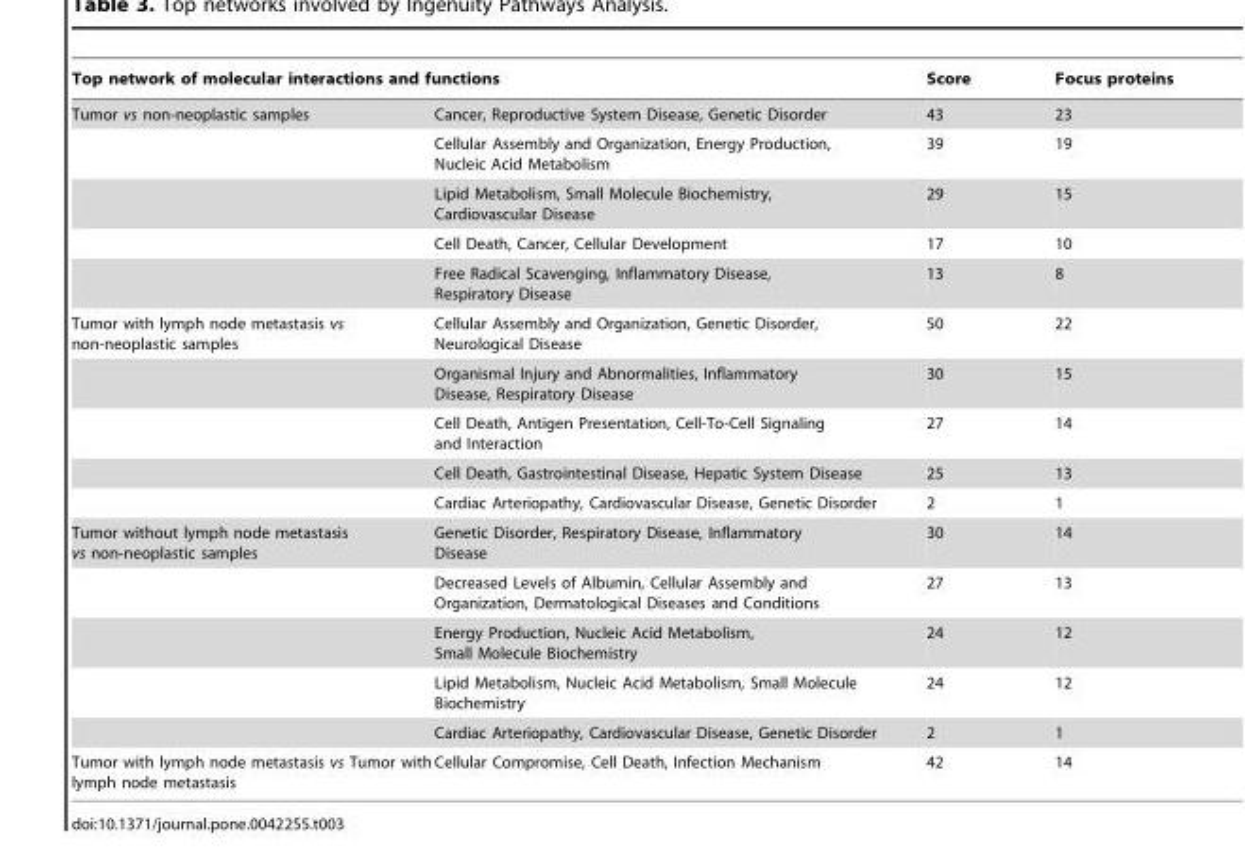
<table><thead><tr><td colspan="2">Top network of molecular interactions and functions</td><td rowspan="2">Score 43</td><td rowspan="2">Focus proteins 23</td></tr><tr><td>Tumor vs non-neoplastic samples</td><td>Cancer, Reproductive System Disease, Genetic Disorder</td></tr></thead><tbody><tr><td></td><td>Cellular Assembly and Organization, Energy Production, Nucleic Acid Metabolism</td><td>39</td><td>19</td></tr><tr><td></td><td>Lipid Metabolism, Small Molecule Biochemistry, Cardiovascular Disease</td><td>29</td><td>15</td></tr><tr><td></td><td>Cell Death, Cancer, Cellular Development</td><td>17</td><td>10</td></tr><tr><td></td><td>Free Radical Scavenging, Inflammatory Disease, Respiratory Disease</td><td>13</td><td>8</td></tr><tr><td rowspan="5">Tumor with lymph node metastasis vs non-neoplastic samples</td><td>Cellular Assembly and Organization, Genetic Disorder, Neurological Disease</td><td>50</td><td>22</td></tr><tr><td>Organismal Injury and Abnormalities, Inflammatory Disease, Respiratory Disease</td><td>30</td><td>15</td></tr><tr><td>Cell Death, Antigen Presentation, Cell-To-Cell Signaling and Interaction</td><td>27</td><td>14</td></tr><tr><td>Cell Death, Gastrointestinal Disease, Hepatic System Disease</td><td>25</td><td>13</td></tr><tr><td>Cardiac Arteriopathy, Cardiovascular Disease, Genetic Disorder</td><td>2</td><td>1</td></tr><tr><td rowspan="5">Tumor without lymph node metastasis vs non-neoplastic samples</td><td>Genetic Disorder, Respiratory Disease, Inflammatory Disease</td><td>30</td><td>14</td></tr><tr><td>Decreased Levels of Albumin, Cellular Assembly and Organization, Dermatological Diseases and Conditions</td><td>27</td><td>13</td></tr><tr><td>Energy Production, Nucleic Acid Metabolism, Small Molecule Biochemistry</td><td>24</td><td>12</td></tr><tr><td>Lipid Metabolism, Nucleic Acid Metabolism, Small Molecule Biochemistry</td><td>24</td><td>12</td></tr><tr><td>Cardiac Arteriopathy, Cardiovascular Disease, Genetic Disorder</td><td>2</td><td>1</td></tr><tr><td>Tumor with lymph node metastasis vs Tumor with lymph node metastasis</td><td>Cellular Compromise, Cell Death, Infection Mechanism</td><td>42</td><td>14</td></tr></tbody></table>